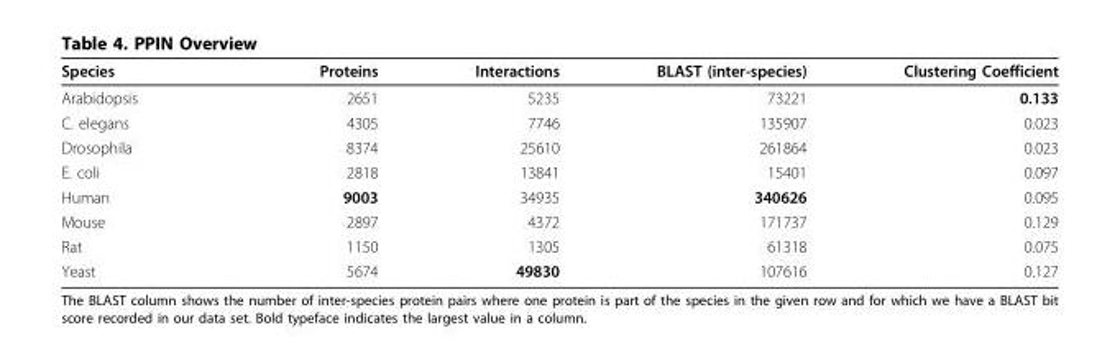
<table><thead><tr><td>Species</td><td>Proteins</td><td>Interactions</td><td>BLAST (inter-species)</td><td>Clustering Coefficient</td></tr></thead><tbody><tr><td>Arabidopsis</td><td>2651</td><td>5235</td><td>73221</td><td>0.133</td></tr><tr><td>C. elegans</td><td>4305</td><td>7746</td><td>135907</td><td>0.023</td></tr><tr><td>Drosophila</td><td>8374</td><td>25610</td><td>261864</td><td>0.023</td></tr><tr><td>E. coli</td><td>2818</td><td>13841</td><td>15401</td><td>0.097</td></tr><tr><td>Human</td><td>9003</td><td>34935</td><td>340626</td><td>0.095</td></tr><tr><td>Mouse</td><td>2897</td><td>4372</td><td>171737</td><td>0.129</td></tr><tr><td>Rat</td><td>1150</td><td>1305</td><td>61318</td><td>0.075</td></tr><tr><td>Yeast</td><td>5674</td><td>49830</td><td>107616</td><td>0.127</td></tr></tbody></table>